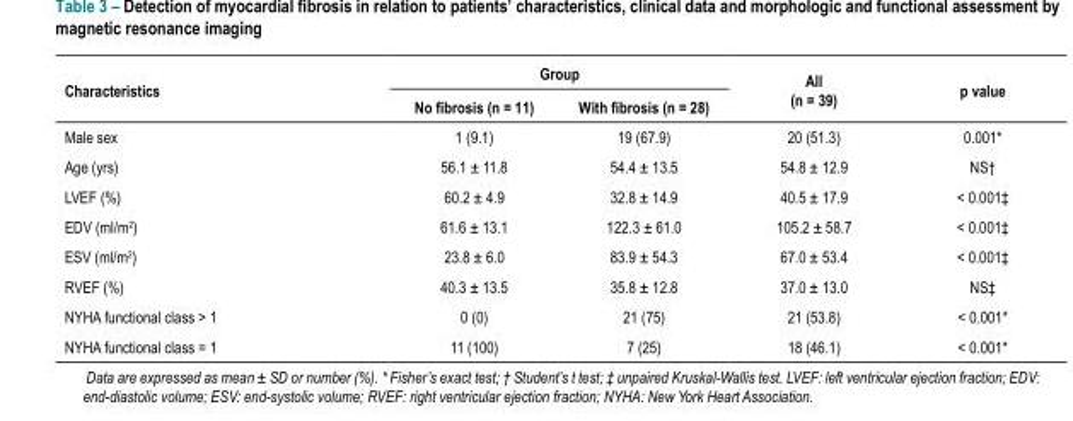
<table><thead><tr><td rowspan="2">Characteristics</td><td colspan="2">Group</td><td rowspan="2">All (n = 39)</td><td rowspan="2">p value</td></tr><tr><td>No fibrosis (n = 11)</td><td>With fibrosis (n = 28)</td></tr></thead><tbody><tr><td>Male sex</td><td>1 (9.1)</td><td>19 (67.9)</td><td>20 (51.3)</td><td>0.001*</td></tr><tr><td>Age (yrs)</td><td>56.1 ± 11.8</td><td>54.4 ± 13.5</td><td>54.8 ± 12.9</td><td>NS†</td></tr><tr><td>LVEF (%)</td><td>60.2 ± 4.9</td><td>32.8 ± 14.9</td><td>40.5 ± 17.9</td><td>&lt; 0.001‡</td></tr><tr><td>EDV (ml/m<sup>2</sup>)</td><td>61.6 ± 13.1</td><td>122.3 ± 61.0</td><td>105.2 ± 58.7</td><td>&lt; 0.001‡</td></tr><tr><td>ESV (ml/m<sup>2</sup>)</td><td>23.8 ± 6.0</td><td>83.9 ± 54.3</td><td>67.0 ± 53.4</td><td>&lt; 0.001‡</td></tr><tr><td>RVEF (%)</td><td>40.3 ± 13.5</td><td>35.8 ± 12.8</td><td>37.0 ± 13.0</td><td>NS‡</td></tr><tr><td>NYHA functional class &gt; 1</td><td>0 (0)</td><td>21 (75)</td><td>21 (53.8)</td><td>&lt; 0.001*</td></tr><tr><td>NYHA functional class = 1</td><td>11 (100)</td><td>7 (25)</td><td>18 (46.1)</td><td>&lt; 0.001*</td></tr></tbody></table>